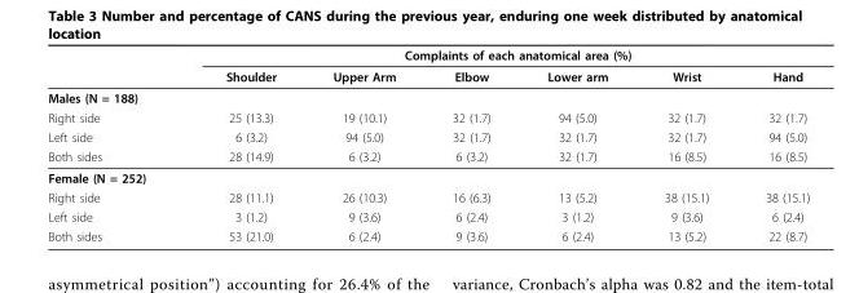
<table><thead><tr><td rowspan="2"></td><td colspan="6">Complaints of each anatomical area (%)</td></tr><tr><td>Shoulder</td><td>Upper Arm</td><td>Elbow</td><td>Lower arm</td><td>Wrist</td><td>Hand</td></tr></thead><tbody><tr><td colspan="7">Males (N = 188)</td></tr><tr><td>Right side</td><td>25 (13.3)</td><td>19 (10.1)</td><td>32 (1.7)</td><td>94 (5.0)</td><td>32 (1.7)</td><td>32 (1.7)</td></tr><tr><td>Left side</td><td>6 (3.2)</td><td>94 (5.0)</td><td>32 (1.7)</td><td>32 (1.7)</td><td>32 (1.7)</td><td>94 (5.0)</td></tr><tr><td>Both sides</td><td>28 (14.9)</td><td>6 (3.2)</td><td>6 (3.2)</td><td>32 (1.7)</td><td>16 (8.5)</td><td>16 (8.5)</td></tr><tr><td colspan="7">Female (N = 252)</td></tr><tr><td>Right side</td><td>28 (11.1)</td><td>26 (10.3)</td><td>16 (6.3)</td><td>13 (5.2)</td><td>38 (15.1)</td><td>38 (15.1)</td></tr><tr><td>Left side</td><td>3 (1.2)</td><td>9 (3.6)</td><td>6 (2.4)</td><td>3 (1.2)</td><td>9 (3.6)</td><td>6 (2.4)</td></tr><tr><td>Both sides</td><td>53 (21.0)</td><td>6 (2.4)</td><td>9 (3.6)</td><td>6 (2.4)</td><td>13 (5.2)</td><td>22 (8.7)</td></tr></tbody></table>